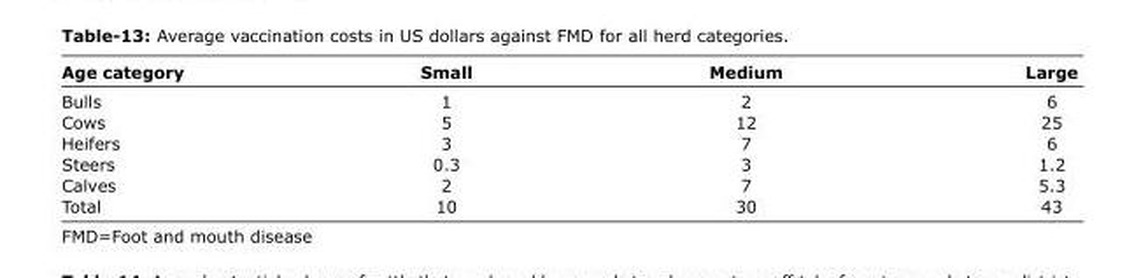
<table><thead><tr><td>Age category</td><td>Small</td><td>Medium</td><td>Large</td></tr></thead><tbody><tr><td>Bulls</td><td>1</td><td>2</td><td>6</td></tr><tr><td>Cows</td><td>5</td><td>12</td><td>25</td></tr><tr><td>Heifers</td><td>3</td><td>7</td><td>6</td></tr><tr><td>Steers</td><td>0.3</td><td>3</td><td>1.2</td></tr><tr><td>Calves</td><td>2</td><td>7</td><td>5.3</td></tr><tr><td>Total</td><td>10</td><td>30</td><td>43</td></tr></tbody></table>